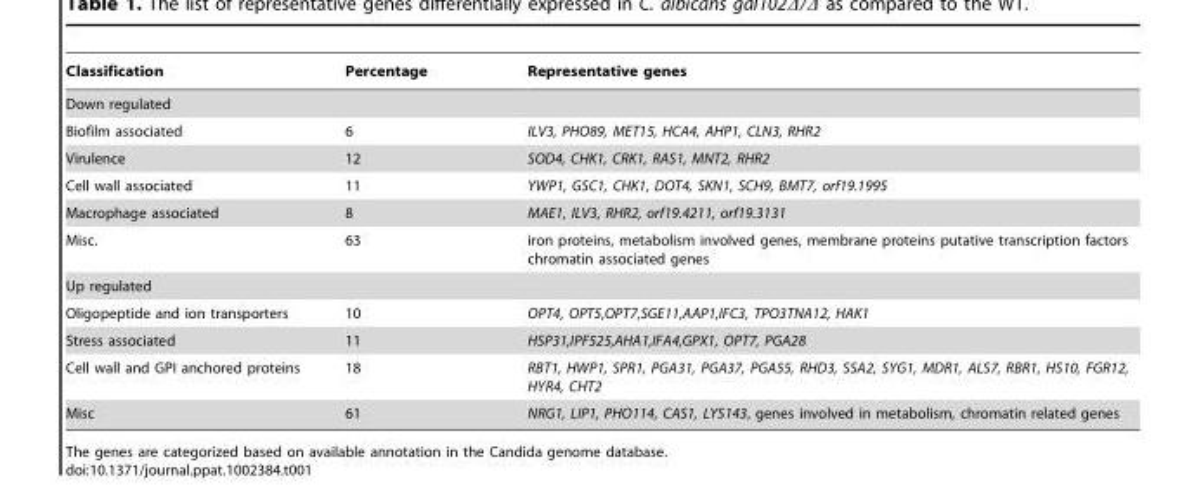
<table><thead><tr><td>Classification</td><td>Percentage</td><td>Representative genes</td></tr></thead><tbody><tr><td colspan="3">Down regulated</td></tr><tr><td>Biofilm associated</td><td>6</td><td>ILV3, PHO89, MET15, HCA4, AHP1, CLN3, RHR2</td></tr><tr><td>Virulence</td><td>12</td><td>SOD4, CHK1, CRK1, RAS1, MNT2, RHR2</td></tr><tr><td>Cell wall associated</td><td>11</td><td>YWP1, GSC1, CHK1, DOT4, SKN1, SCH9, BMT7, orf19.1995</td></tr><tr><td>Macrophage associated</td><td>8</td><td>MAE1, ILV3, RHR2, orf19.4211, orf19.3131</td></tr><tr><td>Misc.</td><td>63</td><td>iron proteins, metabolism involved genes, membrane proteins putative transcription factors chromatin associated genes</td></tr><tr><td colspan="3">Up regulated</td></tr><tr><td>Oligopeptide and ion transporters</td><td>10</td><td>OPT4, OPT5,OPT7,SGE11,AAP1,IFC3, TPO3TNA12, HAK1</td></tr><tr><td>Stress associated</td><td>11</td><td>HSP31,IPF525,AHA1,IFA4,GPX1, OPT7, PGA28</td></tr><tr><td>Cell wall and GPI anchored proteins</td><td>18</td><td>RBT1, HWP1, SPR1, PGA31, PGA37, PGA55, RHD3, SSA2, SYG1, MDR1, ALS7, RBR1, HS10, FGR12, HYR4, CHT2</td></tr><tr><td>Misc</td><td>61</td><td>NRG1, LIP1, PHO114, CAS1, LYS143, genes involved in metabolism, chromatin related genes</td></tr></tbody></table>